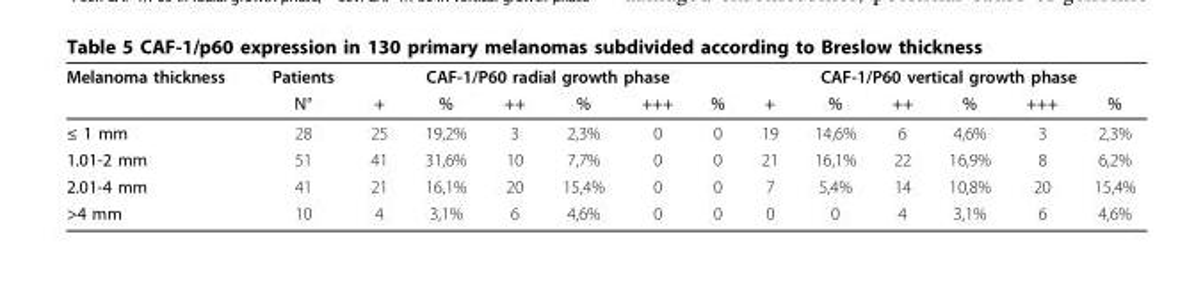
<table><thead><tr><td rowspan="2">Melanoma thickness</td><td rowspan="2">Patients N°</td><td colspan="6">CAF-1/P60 radial growth phase</td><td colspan="6">CAF-1/P60 vertical growth phase</td></tr><tr><td>+</td><td>%</td><td>++</td><td>%</td><td>+++</td><td>%</td><td>+</td><td>%</td><td>++</td><td>%</td><td>+++</td><td>%</td></tr></thead><tbody><tr><td>≤ 1 mm</td><td>28</td><td>25</td><td>19,2%</td><td>3</td><td>2,3%</td><td>0</td><td>0</td><td>19</td><td>14,6%</td><td>6</td><td>4,6%</td><td>3</td><td>2,3%</td></tr><tr><td>1.01-2 mm</td><td>51</td><td>41</td><td>31,6%</td><td>10</td><td>7,7%</td><td>0</td><td>0</td><td>21</td><td>16,1%</td><td>22</td><td>16,9%</td><td>8</td><td>6,2%</td></tr><tr><td>2.01-4 mm</td><td>41</td><td>21</td><td>16,1%</td><td>20</td><td>15,4%</td><td>0</td><td>0</td><td>7</td><td>5,4%</td><td>14</td><td>10,8%</td><td>20</td><td>15,4%</td></tr><tr><td>&gt;4 mm</td><td>10</td><td>4</td><td>3,1%</td><td>6</td><td>4,6%</td><td>0</td><td>0</td><td>0</td><td>0</td><td>4</td><td>3,1%</td><td>6</td><td>4,6%</td></tr></tbody></table>